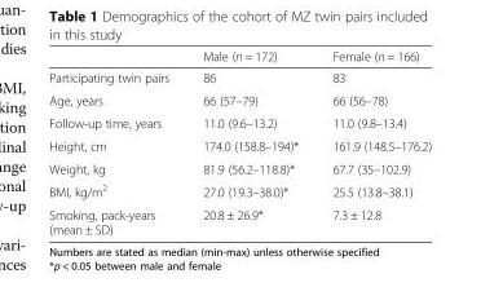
<table><thead><tr><td></td><td>Male (n = 172)</td><td>Female (n = 166)</td></tr></thead><tbody><tr><td>Participating twin pairs</td><td>86</td><td>83</td></tr><tr><td>Age, years</td><td>66 (57–79)</td><td>66 (56–78)</td></tr><tr><td>Follow-up time, years</td><td>11.0 (9.6–13.2)</td><td>11.0 (9.8–13.4)</td></tr><tr><td>Height, cm</td><td>174.0 (158.8–194)*</td><td>161.9 (148.5–176.2)</td></tr><tr><td>Weight, kg</td><td>81.9 (56.2–118.8)*</td><td>67.7 (35–102.9)</td></tr><tr><td>BMI, kg/m<sup>2</sup></td><td>27.0 (19.3–38.0)*</td><td>25.5 (13.8–38.1)</td></tr><tr><td>Smoking, pack-years (mean ± SD)</td><td>20.8 ± 26.9*</td><td>7.3 ± 12.8</td></tr></tbody></table>